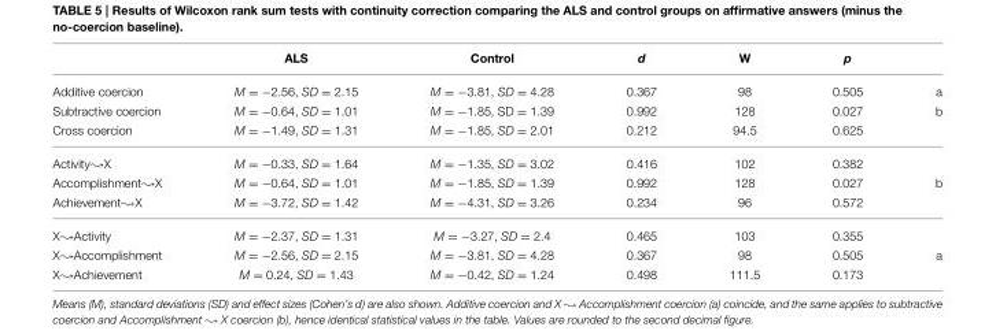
<table><thead><tr><td></td><td>ALS</td><td>Control</td><td>d</td><td>W</td><td>p</td><td></td></tr></thead><tbody><tr><td>Additive coercion</td><td>M = −2.56, SD = 2.15</td><td>M = −3.81, SD = 4.28</td><td>0.367</td><td>98</td><td>0.505</td><td>a</td></tr><tr><td>Subtractive coercion</td><td>M = −0.64, SD = 1.01</td><td>M = −1.85, SD = 1.39</td><td>0.992</td><td>128</td><td>0.027</td><td>b</td></tr><tr><td>Cross coercion</td><td>M = −1.49, SD = 1.31</td><td>M = −1.85, SD = 2.01</td><td>0.212</td><td>94.5</td><td>0.625</td><td></td></tr><tr><td>Activity↝X</td><td>M = −0.33, SD = 1.64</td><td>M = −1.35, SD = 3.02</td><td>0.416</td><td>102</td><td>0.382</td><td></td></tr><tr><td>Accomplishment↝X</td><td>M = −0.64, SD = 1.01</td><td>M = −1.85, SD = 1.39</td><td>0.992</td><td>128</td><td>0.027</td><td>b</td></tr><tr><td>Achievement↝X</td><td>M = −3.72, SD = 1.42</td><td>M = −4.31, SD = 3.26</td><td>0.234</td><td>96</td><td>0.572</td><td></td></tr><tr><td>X↝Activity</td><td>M = −2.37, SD = 1.31</td><td>M = −3.27, SD = 2.4</td><td>0.465</td><td>103</td><td>0.355</td><td></td></tr><tr><td>X↝Accomplishment</td><td>M = −2.56, SD = 2.15</td><td>M = −3.81, SD = 4.28</td><td>0.367</td><td>98</td><td>0.505</td><td>a</td></tr><tr><td>X↝Achievement</td><td>M = 0.24, SD = 1.43</td><td>M = −0.42, SD = 1.24</td><td>0.498</td><td>111.5</td><td>0.173</td><td></td></tr></tbody></table>